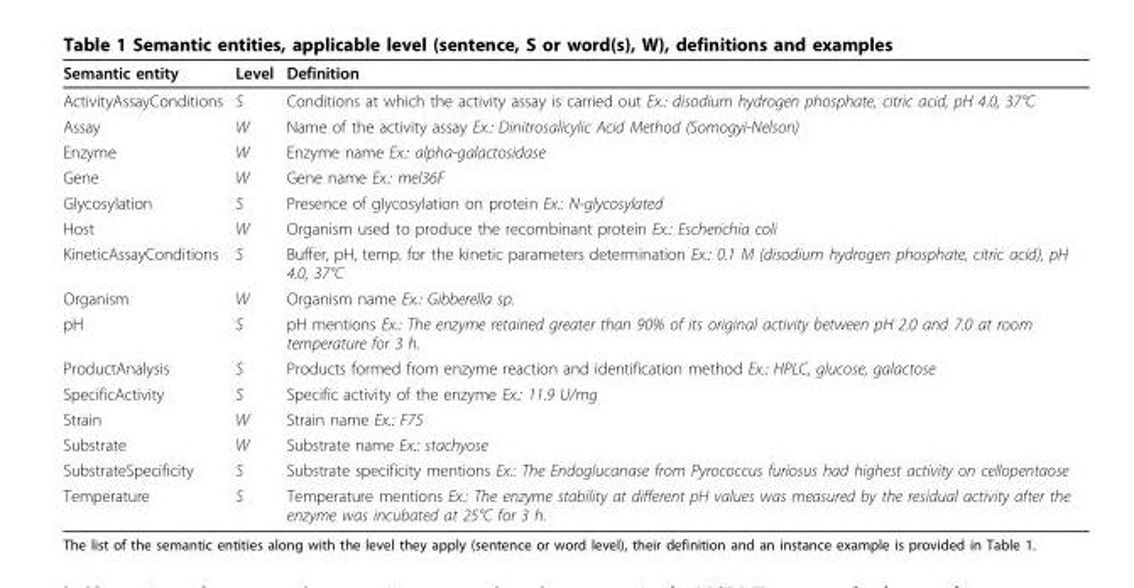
<table><thead><tr><td>Semantic entity</td><td>Level</td><td>Definition</td></tr></thead><tbody><tr><td>ActivityAssayConditions</td><td>S</td><td>Conditions at which the activity assay is carried out Ex.: disodium hydrogen phosphate, citric acid, pH 4.0, 37°C</td></tr><tr><td>Assay</td><td>W</td><td>Name of the activity assay Ex.: Dinitrosalicylic Acid Method (Somogyi-Nelson)</td></tr><tr><td>Enzyme</td><td>W</td><td>Enzyme name Ex.: alpha-galactosidase</td></tr><tr><td>Gene</td><td>W</td><td>Gene name Ex.: mel36F</td></tr><tr><td>Glycosylation</td><td>S</td><td>Presence of glycosylation on protein Ex.: N-glycosylated</td></tr><tr><td>Host</td><td>W</td><td>Organism used to produce the recombinant protein Ex.: Escherichia coli</td></tr><tr><td>KineticAssayConditions</td><td>S</td><td>Buffer, pH, temp. for the kinetic parameters determination Ex.: 0.1 M (disodium hydrogen phosphate, citric acid), pH 4.0, 37°C</td></tr><tr><td>Organism</td><td>W</td><td>Organism name Ex.: Gibberella sp.</td></tr><tr><td>pH</td><td>S</td><td>pH mentions Ex.: The enzyme retained greater than 90% of its original activity between pH 2.0 and 7.0 at room temperature for 3 h.</td></tr><tr><td>ProductAnalysis</td><td>S</td><td>Products formed from enzyme reaction and identification method Ex.: HPLC, glucose, galactose</td></tr><tr><td>SpecificActivity</td><td>S</td><td>Specific activity of the enzyme Ex.: 11.9 U/mg</td></tr><tr><td>Strain</td><td>W</td><td>Strain name Ex.: F75</td></tr><tr><td>Substrate</td><td>W</td><td>Substrate name Ex.: stachyose</td></tr><tr><td>SubstrateSpecificity</td><td>S</td><td>Substrate specificity mentions Ex.: The Endoglucanase from Pyrococcus furiosus had highest activity on cellopentaose</td></tr><tr><td>Temperature</td><td>S</td><td>Temperature mentions Ex.: The enzyme stability at different pH values was measured by the residual activity after the enzyme was incubated at 25°C for 3 h.</td></tr></tbody></table>